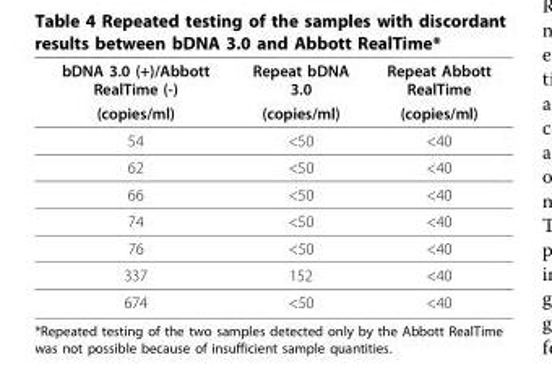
<table><thead><tr><td rowspan="2">bDNA 3.0 (+)/Abbott RealTime (-) (copies/ml)</td><td rowspan="2">Repeat bDNA 3.0 (copies/ml)</td><td rowspan="2">Repeat Abbott RealTime (copies/ml)</td></tr><tr></tr></thead><tbody><tr><td>54</td><td>&lt;50</td><td>&lt;40</td></tr><tr><td>62</td><td>&lt;50</td><td>&lt;40</td></tr><tr><td>66</td><td>&lt;50</td><td>&lt;40</td></tr><tr><td>74</td><td>&lt;50</td><td>&lt;40</td></tr><tr><td>76</td><td>&lt;50</td><td>&lt;40</td></tr><tr><td>337</td><td>152</td><td>&lt;40</td></tr><tr><td>674</td><td>&lt;50</td><td>&lt;40</td></tr></tbody></table>